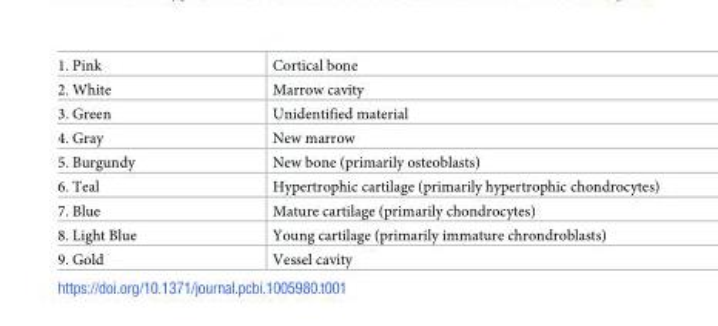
<table><tbody><tr><td>1. Pink</td><td>Cortical bone</td></tr><tr><td>2. White</td><td>Marrow cavity</td></tr><tr><td>3. Green</td><td>Unidentified material</td></tr><tr><td>4. Gray</td><td>New marrow</td></tr><tr><td>5. Burgundy</td><td>New bone (primarily osteoblasts)</td></tr><tr><td>6. Teal</td><td>Hypertrophic cartilage (primarily hypertrophic chondrocytes)</td></tr><tr><td>7. Blue</td><td>Mature cartilage (primarily chondrocytes)</td></tr><tr><td>8. Light Blue</td><td>Young cartilage (primarily immature chrondroblasts)</td></tr><tr><td>9. Gold</td><td>Vessel cavity</td></tr></tbody></table>